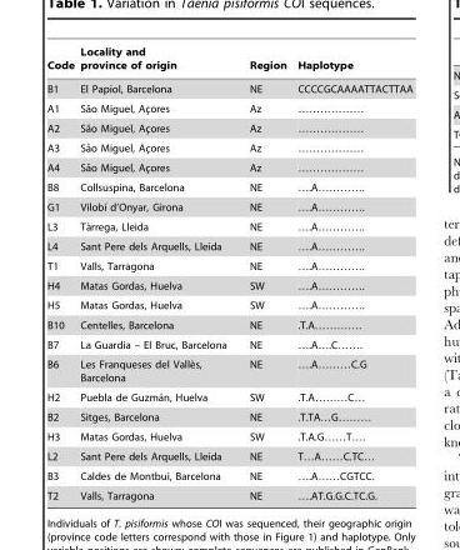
<table><thead><tr><td>Code</td><td>Locality and province of origin</td><td>Region</td><td>Haplotype</td></tr></thead><tbody><tr><td>B1</td><td>El Papiol, Barcelona</td><td>NE</td><td>CCCCGCAAAATTACTTAA</td></tr><tr><td>A1</td><td>Sa˜o Miguel, Ac¸ores</td><td>Az</td><td>………………</td></tr><tr><td>A2</td><td>Sa˜o Miguel, Ac¸ores</td><td>Az</td><td>………………</td></tr><tr><td>A3</td><td>Sa˜o Miguel, Ac¸ores</td><td>Az</td><td>………………</td></tr><tr><td>A4</td><td>Sa˜o Miguel, Ac¸ores</td><td>Az</td><td>………………</td></tr><tr><td>B8</td><td>Collsuspina, Barcelona</td><td>NE</td><td>….A………….</td></tr><tr><td>G1</td><td>Vilobı´ d’Onyar, Girona</td><td>NE</td><td>….A………….</td></tr><tr><td>L3</td><td>Ta`rrega, Lleida</td><td>NE</td><td>….A………….</td></tr><tr><td>L4</td><td>Sant Pere dels Arquells, Lleida</td><td>NE</td><td>….A………….</td></tr><tr><td>T1</td><td>Valls, Tarragona</td><td>NE</td><td>….A………….</td></tr><tr><td>H4</td><td>Matas Gordas, Huelva</td><td>SW</td><td>….A………….</td></tr><tr><td>H5</td><td>Matas Gordas, Huelva</td><td>SW</td><td>….A………….</td></tr><tr><td>B10</td><td>Centelles, Barcelona</td><td>NE</td><td>.T.A………….</td></tr><tr><td>B7</td><td>La Guardia – El Bruc, Barcelona</td><td>NE</td><td>….A….C…….</td></tr><tr><td>B6</td><td>Les Franqueses del Valle`s, Barcelona</td><td>NE</td><td>….A………C.G</td></tr><tr><td>H2</td><td>Puebla de Guzma´n, Huelva</td><td>SW</td><td>.T.A………C…</td></tr><tr><td>B2</td><td>Sitges, Barcelona</td><td>NE</td><td>.T.TA…G………</td></tr><tr><td>H3</td><td>Matas Gordas, Huelva</td><td>SW</td><td>.T.A.G……T….</td></tr><tr><td>L2</td><td>Sant Pere dels Arquells, Lleida</td><td>NE</td><td>T…A……C.TC…</td></tr><tr><td>B3</td><td>Caldes de Montbui, Barcelona</td><td>NE</td><td>….A……CGTCC.</td></tr><tr><td>T2</td><td>Valls, Tarragona</td><td>NE</td><td>….AT.G.G.C.TC.G.</td></tr></tbody></table>